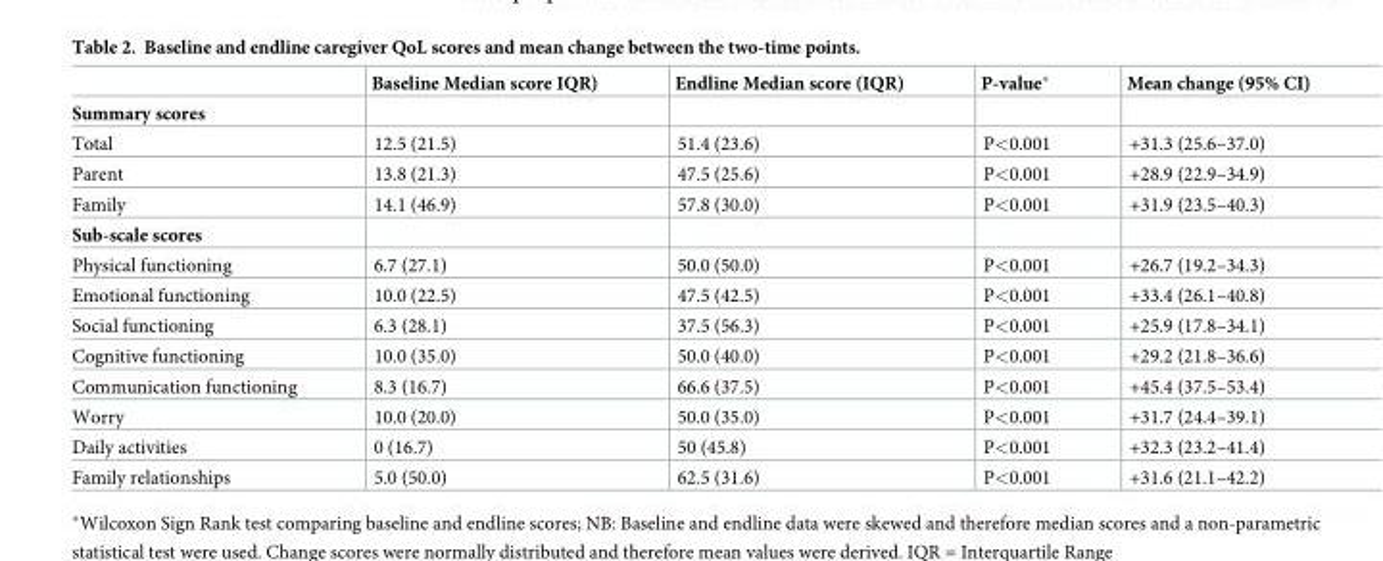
<table><thead><tr><td></td><td>Baseline Median score IQR)</td><td>Endline Median score (IQR)</td><td>P-value*</td><td>Mean change (95% CI)</td></tr></thead><tbody><tr><td colspan="5">Summary scores</td></tr><tr><td>Total</td><td>12.5 (21.5)</td><td>51.4 (23.6)</td><td>P&lt;0.001</td><td>+31.3 (25.6–37.0)</td></tr><tr><td>Parent</td><td>13.8 (21.3)</td><td>47.5 (25.6)</td><td>P&lt;0.001</td><td>+28.9 (22.9–34.9)</td></tr><tr><td>Family</td><td>14.1 (46.9)</td><td>57.8 (30.0)</td><td>P&lt;0.001</td><td>+31.9 (23.5–40.3)</td></tr><tr><td colspan="5">Sub-scale scores</td></tr><tr><td>Physical functioning</td><td>6.7 (27.1)</td><td>50.0 (50.0)</td><td>P&lt;0.001</td><td>+26.7 (19.2–34.3)</td></tr><tr><td>Emotional functioning</td><td>10.0 (22.5)</td><td>47.5 (42.5)</td><td>P&lt;0.001</td><td>+33.4 (26.1–40.8)</td></tr><tr><td>Social functioning</td><td>6.3 (28.1)</td><td>37.5 (56.3)</td><td>P&lt;0.001</td><td>+25.9 (17.8–34.1)</td></tr><tr><td>Cognitive functioning</td><td>10.0 (35.0)</td><td>50.0 (40.0)</td><td>P&lt;0.001</td><td>+29.2 (21.8–36.6)</td></tr><tr><td>Communication functioning</td><td>8.3 (16.7)</td><td>66.6 (37.5)</td><td>P&lt;0.001</td><td>+45.4 (37.5–53.4)</td></tr><tr><td>Worry</td><td>10.0 (20.0)</td><td>50.0 (35.0)</td><td>P&lt;0.001</td><td>+31.7 (24.4–39.1)</td></tr><tr><td>Daily activities</td><td>0 (16.7)</td><td>50 (45.8)</td><td>P&lt;0.001</td><td>+32.3 (23.2–41.4)</td></tr><tr><td>Family relationships</td><td>5.0 (50.0)</td><td>62.5 (31.6)</td><td>P&lt;0.001</td><td>+31.6 (21.1–42.2)</td></tr></tbody></table>